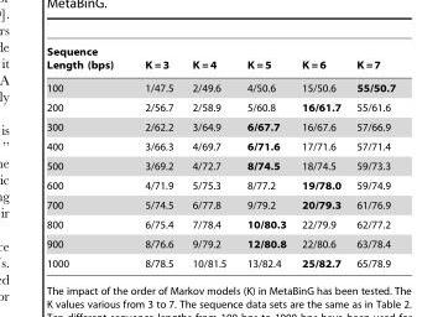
<table><thead><tr><td>Sequence Length (bps)</td><td>K = 3</td><td>K = 4</td><td>K = 5</td><td>K = 6</td><td>K = 7</td></tr></thead><tbody><tr><td>100</td><td>1/47.5</td><td>2/49.6</td><td>4/50.6</td><td>15/50.6</td><td>55/50.7</td></tr><tr><td>200</td><td>2/56.7</td><td>2/58.9</td><td>5/60.8</td><td>16/61.7</td><td>55/61.6</td></tr><tr><td>300</td><td>2/62.2</td><td>3/64.9</td><td>6/67.7</td><td>16/67.6</td><td>57/66.9</td></tr><tr><td>400</td><td>3/66.3</td><td>4/69.7</td><td>6/71.6</td><td>17/71.6</td><td>57/71.4</td></tr><tr><td>500</td><td>3/69.2</td><td>4/72.7</td><td>8/74.5</td><td>18/74.5</td><td>59/73.3</td></tr><tr><td>600</td><td>4/71.9</td><td>5/75.3</td><td>8/77.2</td><td>19/78.0</td><td>59/74.9</td></tr><tr><td>700</td><td>5/74.5</td><td>6/77.8</td><td>9/79.2</td><td>20/79.3</td><td>61/76.9</td></tr><tr><td>800</td><td>6/75.4</td><td>7/78.4</td><td>10/80.3</td><td>22/79.9</td><td>62/77.2</td></tr><tr><td>900</td><td>8/76.6</td><td>9/79.2</td><td>12/80.8</td><td>22/80.6</td><td>63/78.4</td></tr><tr><td>1000</td><td>8/78.5</td><td>10/81.5</td><td>13/82.4</td><td>25/82.7</td><td>65/78.9</td></tr></tbody></table>